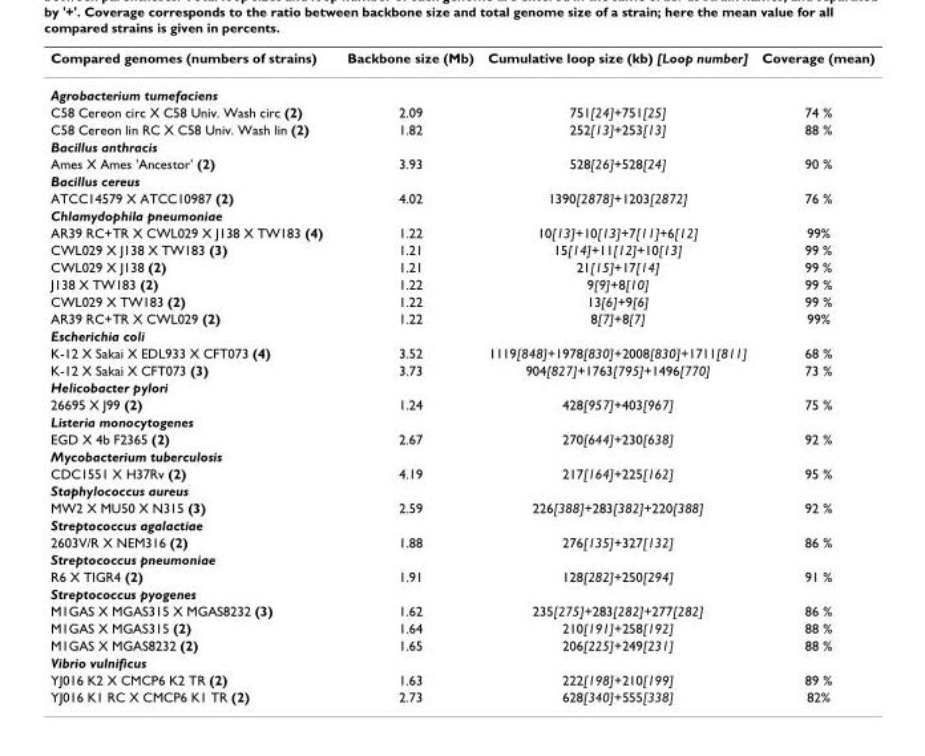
<table><thead><tr><td>Compared genomes (numbers of strains)</td><td>Backbone size (Mb)</td><td>Cumulative loop size (kb) [Loop number]</td><td>Coverage (mean)</td></tr></thead><tbody><tr><td colspan="4">Agrobacterium tumefaciens</td></tr><tr><td>C58 Cereon circ X C58 Univ. Wash circ (2)</td><td>2.09</td><td>751[24]+751[25]</td><td>74 %</td></tr><tr><td>C58 Cereon lin RC X C58 Univ. Wash lin (2)</td><td>1.82</td><td>252[13]+253[13]</td><td>88 %</td></tr><tr><td colspan="4">Bacillus anthracis</td></tr><tr><td>Ames X Ames &#x27;Ancestor&#x27; (2)</td><td>3.93</td><td>528[26]+528[24]</td><td>90 %</td></tr><tr><td colspan="4">Bacillus cereus</td></tr><tr><td>ATCC14579 X ATCC10987 (2)</td><td>4.02</td><td>1390[2878]+1203[2872]</td><td>76 %</td></tr><tr><td colspan="4">Chlamydophila pneumoniae</td></tr><tr><td>AR39 RC+TR X CWL029 X J138 X TW183 (4)</td><td>1.22</td><td>10[13]+10[13]+7[11]+6[12]</td><td>99%</td></tr><tr><td>CWL029 X J138 X TW183 (3)</td><td>1.21</td><td>15[14]+11[12]+10[13]</td><td>99 %</td></tr><tr><td>CWL029 X J138 (2)</td><td>1.21</td><td>21[15]+17[14]</td><td>99 %</td></tr><tr><td>J138 X TW183 (2)</td><td>1.22</td><td>9[9]+8[10]</td><td>99 %</td></tr><tr><td>CWL029 X TW183 (2)</td><td>1.22</td><td>13[6]+9[6]</td><td>99 %</td></tr><tr><td>AR39 RC+TR X CWL029 (2)</td><td>1.22</td><td>8[7]+8[7]</td><td>99%</td></tr><tr><td colspan="4">Escherichia coli</td></tr><tr><td>K-12 X Sakai X EDL933 X CFT073 (4)</td><td>3.52</td><td>1119[848]+1978[830]+2008[830]+1711[811]</td><td>68 %</td></tr><tr><td>K-12 X Sakai X CFT073 (3)</td><td>3.73</td><td>904[827]+1763[795]+1496[770]</td><td>73 %</td></tr><tr><td colspan="4">Helicobacter pylori</td></tr><tr><td>26695 X J99 (2)</td><td>1.24</td><td>428[957]+403[967]</td><td>75 %</td></tr><tr><td colspan="4">Listeria monocytogenes</td></tr><tr><td>EGD X 4b F2365 (2)</td><td>2.67</td><td>270[644]+230[638]</td><td>92 %</td></tr><tr><td colspan="4">Mycobacterium tuberculosis</td></tr><tr><td>CDC1551 X H37Rv (2)</td><td>4.19</td><td>217[164]+225[162]</td><td>95 %</td></tr><tr><td colspan="4">Staphylococcus aureus</td></tr><tr><td>MW2 X MU50 X N315 (3)</td><td>2.59</td><td>226[388]+283[382]+220[388]</td><td>92 %</td></tr><tr><td colspan="4">Streptococcus agalactiae</td></tr><tr><td>2603V/R X NEM316 (2)</td><td>1.88</td><td>276[135]+327[132]</td><td>86 %</td></tr><tr><td colspan="4">Streptococcus pneumoniae</td></tr><tr><td>R6 X TIGR4 (2)</td><td>1.91</td><td>128[282]+250[294]</td><td>91 %</td></tr><tr><td colspan="4">Streptococcus pyogenes</td></tr><tr><td>M1GAS X MGAS315 X MGAS8232 (3)</td><td>1.62</td><td>235[275]+283[282]+277[282]</td><td>86 %</td></tr><tr><td>M1GAS X MGAS315 (2)</td><td>1.64</td><td>210[191]+258[192]</td><td>88 %</td></tr><tr><td>M1GAS X MGAS8232 (2)</td><td>1.65</td><td>206[225]+249[231]</td><td>88 %</td></tr><tr><td colspan="4">Vibrio vulnificus</td></tr><tr><td>YJ016 K2 X CMCP6 K2 TR (2)</td><td>1.63</td><td>222[198]+210[199]</td><td>89 %</td></tr><tr><td>YJ016 K1 RC X CMCP6 K1 TR (2)</td><td>2.73</td><td>628[340]+555[338]</td><td>82%</td></tr></tbody></table>